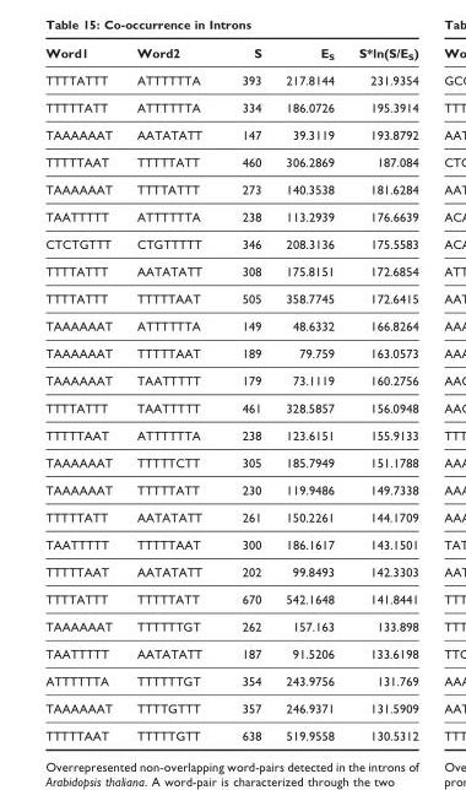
<table><thead><tr><td>Word1</td><td>Word2</td><td>S</td><td>E<sub>S</sub></td><td>S*ln(S/E<sub>S</sub>)</td></tr></thead><tbody><tr><td>TTTTATTT</td><td>ATTTTTTA</td><td>393</td><td>217.8144</td><td>231.9354</td></tr><tr><td>TTTTTATT</td><td>ATTTTTTA</td><td>334</td><td>186.0726</td><td>195.3914</td></tr><tr><td>TAAAAAAT</td><td>AATATATT</td><td>147</td><td>39.3119</td><td>193.8792</td></tr><tr><td>TTTTTAAT</td><td>TTTTTATT</td><td>460</td><td>306.2869</td><td>187.084</td></tr><tr><td>TAAAAAAT</td><td>TTTTATTT</td><td>273</td><td>140.3538</td><td>181.6284</td></tr><tr><td>TAATTTTT</td><td>ATTTTTTA</td><td>238</td><td>113.2939</td><td>176.6639</td></tr><tr><td>CTCTGTTT</td><td>CTGTTTTT</td><td>346</td><td>208.3136</td><td>175.5583</td></tr><tr><td>TTTTATTT</td><td>AATATATT</td><td>308</td><td>175.8151</td><td>172.6854</td></tr><tr><td>TTTTATTT</td><td>TTTTTAAT</td><td>505</td><td>358.7745</td><td>172.6415</td></tr><tr><td>TAAAAAAT</td><td>ATTTTTTA</td><td>149</td><td>48.6332</td><td>166.8264</td></tr><tr><td>TAAAAAAT</td><td>TTTTTAAT</td><td>189</td><td>79.759</td><td>163.0573</td></tr><tr><td>TAAAAAAT</td><td>TAATTTTT</td><td>179</td><td>73.1119</td><td>160.2756</td></tr><tr><td>TTTTATTT</td><td>TAATTTTT</td><td>461</td><td>328.5857</td><td>156.0948</td></tr><tr><td>TTTTTAAT</td><td>ATTTTTTA</td><td>238</td><td>123.6151</td><td>155.9133</td></tr><tr><td>TAAAAAAT</td><td>TTTTTCTT</td><td>305</td><td>185.7949</td><td>151.1788</td></tr><tr><td>TAAAAAAT</td><td>TTTTTATT</td><td>230</td><td>119.9486</td><td>149.7338</td></tr><tr><td>TTTTTATT</td><td>AATATATT</td><td>261</td><td>150.2261</td><td>144.1709</td></tr><tr><td>TAATTTTT</td><td>TTTTTAAT</td><td>300</td><td>186.1617</td><td>143.1501</td></tr><tr><td>TTTTTAAT</td><td>AATATATT</td><td>202</td><td>99.8493</td><td>142.3303</td></tr><tr><td>TTTTATTT</td><td>TTTTTATT</td><td>670</td><td>542.1648</td><td>141.8441</td></tr><tr><td>TAAAAAAT</td><td>TTTTTTGT</td><td>262</td><td>157.163</td><td>133.898</td></tr><tr><td>TAATTTTT</td><td>AATATATT</td><td>187</td><td>91.5206</td><td>133.6198</td></tr><tr><td>ATTTTTTA</td><td>TTTTTTGT</td><td>354</td><td>243.9756</td><td>131.769</td></tr><tr><td>TAAAAAAT</td><td>TTTTGTTT</td><td>357</td><td>246.9371</td><td>131.5909</td></tr><tr><td>TTTTTAAT</td><td>TTTTTGTT</td><td>638</td><td>519.9558</td><td>130.5312</td></tr></tbody></table>